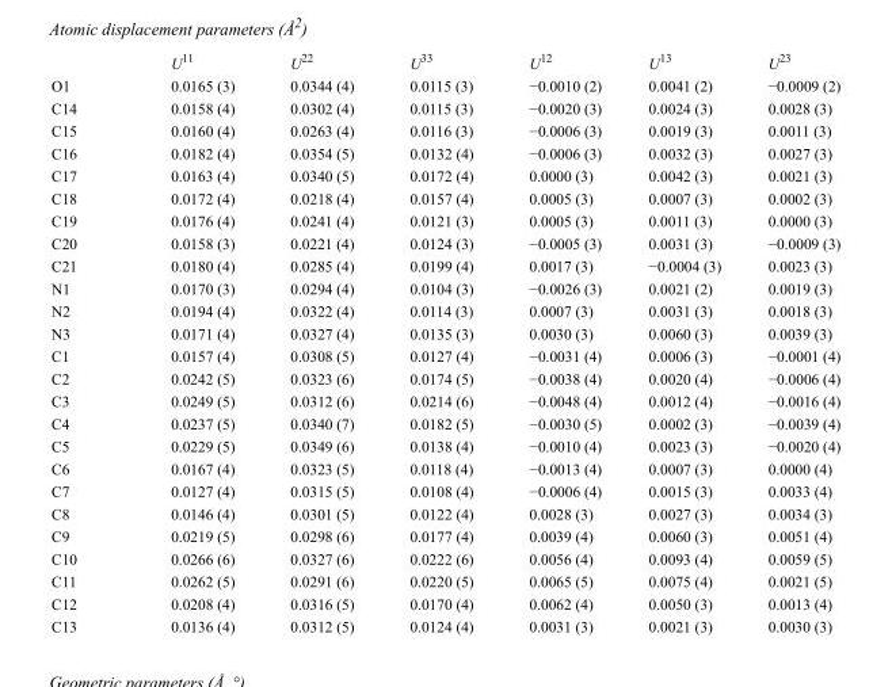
<table><thead><tr><td></td><td>U<sup>11</sup></td><td>U<sup>22</sup></td><td>U<sup>33</sup></td><td>U<sup>12</sup></td><td>U<sup>13</sup></td><td>U<sup>23</sup></td></tr></thead><tbody><tr><td>O1</td><td>0.0165 (3)</td><td>0.0344 (4)</td><td>0.0115 (3)</td><td>−0.0010 (2)</td><td>0.0041 (2)</td><td>−0.0009 (2)</td></tr><tr><td>C14</td><td>0.0158 (4)</td><td>0.0302 (4)</td><td>0.0115 (3)</td><td>−0.0020 (3)</td><td>0.0024 (3)</td><td>0.0028 (3)</td></tr><tr><td>C15</td><td>0.0160 (4)</td><td>0.0263 (4)</td><td>0.0116 (3)</td><td>−0.0006 (3)</td><td>0.0019 (3)</td><td>0.0011 (3)</td></tr><tr><td>C16</td><td>0.0182 (4)</td><td>0.0354 (5)</td><td>0.0132 (4)</td><td>−0.0006 (3)</td><td>0.0032 (3)</td><td>0.0027 (3)</td></tr><tr><td>C17</td><td>0.0163 (4)</td><td>0.0340 (5)</td><td>0.0172 (4)</td><td>0.0000 (3)</td><td>0.0042 (3)</td><td>0.0021 (3)</td></tr><tr><td>C18</td><td>0.0172 (4)</td><td>0.0218 (4)</td><td>0.0157 (4)</td><td>0.0005 (3)</td><td>0.0007 (3)</td><td>0.0002 (3)</td></tr><tr><td>C19</td><td>0.0176 (4)</td><td>0.0241 (4)</td><td>0.0121 (3)</td><td>0.0005 (3)</td><td>0.0011 (3)</td><td>0.0000 (3)</td></tr><tr><td>C20</td><td>0.0158 (3)</td><td>0.0221 (4)</td><td>0.0124 (3)</td><td>−0.0005 (3)</td><td>0.0031 (3)</td><td>−0.0009 (3)</td></tr><tr><td>C21</td><td>0.0180 (4)</td><td>0.0285 (4)</td><td>0.0199 (4)</td><td>0.0017 (3)</td><td>−0.0004 (3)</td><td>0.0023 (3)</td></tr><tr><td>N1</td><td>0.0170 (3)</td><td>0.0294 (4)</td><td>0.0104 (3)</td><td>−0.0026 (3)</td><td>0.0021 (2)</td><td>0.0019 (3)</td></tr><tr><td>N2</td><td>0.0194 (4)</td><td>0.0322 (4)</td><td>0.0114 (3)</td><td>0.0007 (3)</td><td>0.0031 (3)</td><td>0.0018 (3)</td></tr><tr><td>N3</td><td>0.0171 (4)</td><td>0.0327 (4)</td><td>0.0135 (3)</td><td>0.0030 (3)</td><td>0.0060 (3)</td><td>0.0039 (3)</td></tr><tr><td>C1</td><td>0.0157 (4)</td><td>0.0308 (5)</td><td>0.0127 (4)</td><td>−0.0031 (4)</td><td>0.0006 (3)</td><td>−0.0001 (4)</td></tr><tr><td>C2</td><td>0.0242 (5)</td><td>0.0323 (6)</td><td>0.0174 (5)</td><td>−0.0038 (4)</td><td>0.0020 (4)</td><td>−0.0006 (4)</td></tr><tr><td>C3</td><td>0.0249 (5)</td><td>0.0312 (6)</td><td>0.0214 (6)</td><td>−0.0048 (4)</td><td>0.0012 (4)</td><td>−0.0016 (4)</td></tr><tr><td>C4</td><td>0.0237 (5)</td><td>0.0340 (7)</td><td>0.0182 (5)</td><td>−0.0030 (5)</td><td>0.0002 (3)</td><td>−0.0039 (4)</td></tr><tr><td>C5</td><td>0.0229 (5)</td><td>0.0349 (6)</td><td>0.0138 (4)</td><td>−0.0010 (4)</td><td>0.0023 (3)</td><td>−0.0020 (4)</td></tr><tr><td>C6</td><td>0.0167 (4)</td><td>0.0323 (5)</td><td>0.0118 (4)</td><td>−0.0013 (4)</td><td>0.0007 (3)</td><td>0.0000 (4)</td></tr><tr><td>C7</td><td>0.0127 (4)</td><td>0.0315 (5)</td><td>0.0108 (4)</td><td>−0.0006 (4)</td><td>0.0015 (3)</td><td>0.0033 (4)</td></tr><tr><td>C8</td><td>0.0146 (4)</td><td>0.0301 (5)</td><td>0.0122 (4)</td><td>0.0028 (3)</td><td>0.0027 (3)</td><td>0.0034 (3)</td></tr><tr><td>C9</td><td>0.0219 (5)</td><td>0.0298 (6)</td><td>0.0177 (4)</td><td>0.0039 (4)</td><td>0.0060 (3)</td><td>0.0051 (4)</td></tr><tr><td>C10</td><td>0.0266 (6)</td><td>0.0327 (6)</td><td>0.0222 (6)</td><td>0.0056 (4)</td><td>0.0093 (4)</td><td>0.0059 (5)</td></tr><tr><td>C11</td><td>0.0262 (5)</td><td>0.0291 (6)</td><td>0.0220 (5)</td><td>0.0065 (5)</td><td>0.0075 (4)</td><td>0.0021 (5)</td></tr><tr><td>C12</td><td>0.0208 (4)</td><td>0.0316 (5)</td><td>0.0170 (4)</td><td>0.0062 (4)</td><td>0.0050 (3)</td><td>0.0013 (4)</td></tr><tr><td>C13</td><td>0.0136 (4)</td><td>0.0312 (5)</td><td>0.0124 (4)</td><td>0.0031 (3)</td><td>0.0021 (3)</td><td>0.0030 (3)</td></tr></tbody></table>